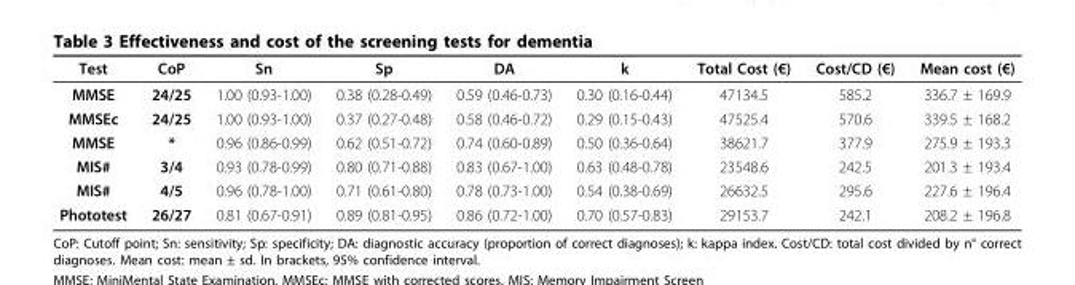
<table><thead><tr><td>Test</td><td>CoP</td><td>Sn</td><td>Sp</td><td>DA</td><td>k</td><td>Total Cost (€)</td><td>Cost/CD (€)</td><td>Mean cost (€)</td></tr></thead><tbody><tr><td>MMSE</td><td>24/25</td><td>1.00 (0.93-1.00)</td><td>0.38 (0.28-0.49)</td><td>0.59 (0.46-0.73)</td><td>0.30 (0.16-0.44)</td><td>47134.5</td><td>585.2</td><td>336.7 ± 169.9</td></tr><tr><td>MMSEc</td><td>24/25</td><td>1.00 (0.93-1.00)</td><td>0.37 (0.27-0.48)</td><td>0.58 (0.46-0.72)</td><td>0.29 (0.15-0.43)</td><td>47525.4</td><td>570.6</td><td>339.5 ± 168.2</td></tr><tr><td>MMSE</td><td>*</td><td>0.96 (0.86-0.99)</td><td>0.62 (0.51-0.72)</td><td>0.74 (0.60-0.89)</td><td>0.50 (0.36-0.64)</td><td>38621.7</td><td>377.9</td><td>275.9 ± 193.3</td></tr><tr><td>MIS#</td><td>3/4</td><td>0.93 (0.78-0.99)</td><td>0.80 (0.71-0.88)</td><td>0.83 (0.67-1.00)</td><td>0.63 (0.48-0.78)</td><td>23548.6</td><td>242.5</td><td>201.3 ± 193.4</td></tr><tr><td>MIS#</td><td>4/5</td><td>0.96 (0.78-1.00)</td><td>0.71 (0.61-0.80)</td><td>0.78 (0.73-1.00)</td><td>0.54 (0.38-0.69)</td><td>26632.5</td><td>295.6</td><td>227.6 ± 196.4</td></tr><tr><td>Phototest</td><td>26/27</td><td>0.81 (0.67-0.91)</td><td>0.89 (0.81-0.95)</td><td>0.86 (0.72-1.00)</td><td>0.70 (0.57-0.83)</td><td>29153.7</td><td>242.1</td><td>208.2 ± 196.8</td></tr></tbody></table>